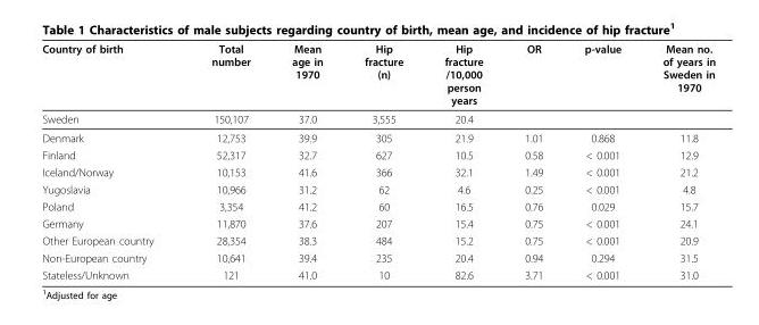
<table><thead><tr><td>Country of birth</td><td>Total number</td><td>Mean age in 1970</td><td>Hip fracture (n)</td><td>Hip fracture /10,000 person years</td><td>OR</td><td>p-value</td><td>Mean no. of years in Sweden in 1970</td></tr></thead><tbody><tr><td>Sweden</td><td>150,107</td><td>37.0</td><td>3,555</td><td>20.4</td><td></td><td></td><td></td></tr><tr><td>Denmark</td><td>12,753</td><td>39.9</td><td>305</td><td>21.9</td><td>1.01</td><td>0.868</td><td>11.8</td></tr><tr><td>Finland</td><td>52,317</td><td>32.7</td><td>627</td><td>10.5</td><td>0.58</td><td>&lt; 0.001</td><td>12.9</td></tr><tr><td>Iceland/Norway</td><td>10,153</td><td>41.6</td><td>366</td><td>32.1</td><td>1.49</td><td>&lt; 0.001</td><td>21.2</td></tr><tr><td>Yugoslavia</td><td>10,966</td><td>31.2</td><td>62</td><td>4.6</td><td>0.25</td><td>&lt; 0.001</td><td>4.8</td></tr><tr><td>Poland</td><td>3,354</td><td>41.2</td><td>60</td><td>16.5</td><td>0.76</td><td>0.029</td><td>15.7</td></tr><tr><td>Germany</td><td>11,870</td><td>37.6</td><td>207</td><td>15.4</td><td>0.75</td><td>&lt; 0.001</td><td>24.1</td></tr><tr><td>Other European country</td><td>28,354</td><td>38.3</td><td>484</td><td>15.2</td><td>0.75</td><td>&lt; 0.001</td><td>20.9</td></tr><tr><td>Non-European country</td><td>10,641</td><td>39.4</td><td>235</td><td>20.4</td><td>0.94</td><td>0.294</td><td>31.5</td></tr><tr><td>Stateless/Unknown</td><td>121</td><td>41.0</td><td>10</td><td>82.6</td><td>3.71</td><td>&lt; 0.001</td><td>31.0</td></tr></tbody></table>